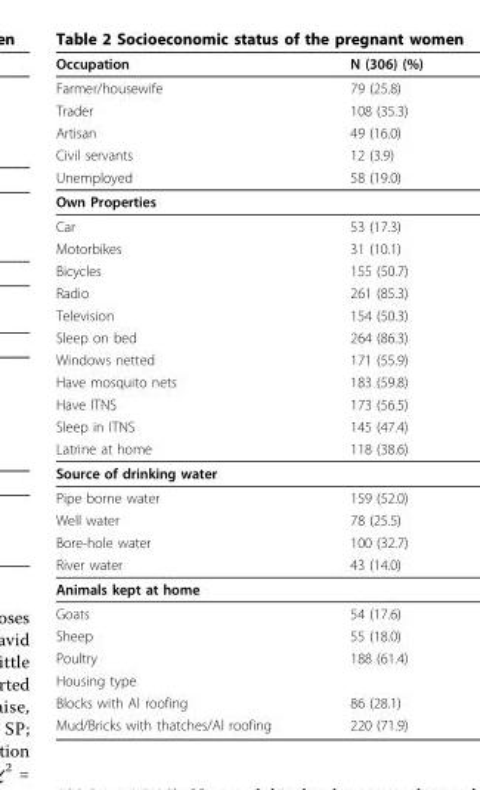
<table><thead><tr><td>Occupation</td><td>N (306) (%)</td></tr></thead><tbody><tr><td>Farmer/housewife</td><td>79 (25.8)</td></tr><tr><td>Trader</td><td>108 (35.3)</td></tr><tr><td>Artisan</td><td>49 (16.0)</td></tr><tr><td>Civil servants</td><td>12 (3.9)</td></tr><tr><td>Unemployed</td><td>58 (19.0)</td></tr><tr><td colspan="2">Own Properties</td></tr><tr><td>Car</td><td>53 (17.3)</td></tr><tr><td>Motorbikes</td><td>31 (10.1)</td></tr><tr><td>Bicycles</td><td>155 (50.7)</td></tr><tr><td>Radio</td><td>261 (85.3)</td></tr><tr><td>Television</td><td>154 (50.3)</td></tr><tr><td>Sleep on bed</td><td>264 (86.3)</td></tr><tr><td>Windows netted</td><td>171 (55.9)</td></tr><tr><td>Have mosquito nets</td><td>183 (59.8)</td></tr><tr><td>Have ITNS</td><td>173 (56.5)</td></tr><tr><td>Sleep in ITNS</td><td>145 (47.4)</td></tr><tr><td>Latrine at home</td><td>118 (38.6)</td></tr><tr><td colspan="2">Source of drinking water</td></tr><tr><td>Pipe borne water</td><td>159 (52.0)</td></tr><tr><td>Well water</td><td>78 (25.5)</td></tr><tr><td>Bore-hole water</td><td>100 (32.7)</td></tr><tr><td>River water</td><td>43 (14.0)</td></tr><tr><td colspan="2">Animals kept at home</td></tr><tr><td>Goats</td><td>54 (17.6)</td></tr><tr><td>Sheep</td><td>55 (18.0)</td></tr><tr><td>Poultry</td><td>188 (61.4)</td></tr><tr><td colspan="2">Housing type</td></tr><tr><td>Blocks with Al roofing</td><td>86 (28.1)</td></tr><tr><td>Mud/Bricks with thatches/Al roofing</td><td>220 (71.9)</td></tr></tbody></table>